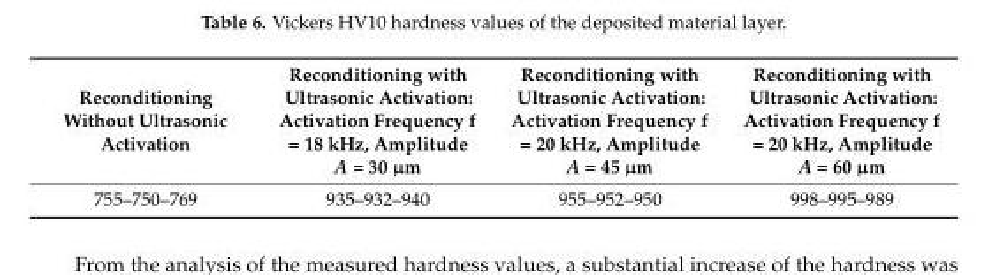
<table><thead><tr><td>Reconditioning Without Ultrasonic Activation</td><td>Reconditioning with Ultrasonic Activation: Activation Frequency f = 18 kHz, Amplitude A = 30 µm</td><td>Reconditioning with Ultrasonic Activation: Activation Frequency f = 20 kHz, Amplitude A = 45 µm</td><td>Reconditioning with Ultrasonic Activation: Activation Frequency f = 20 kHz, Amplitude A = 60 µm</td></tr></thead><tbody><tr><td>755–750–769</td><td>935–932–940</td><td>955–952–950</td><td>998–995–989</td></tr></tbody></table>